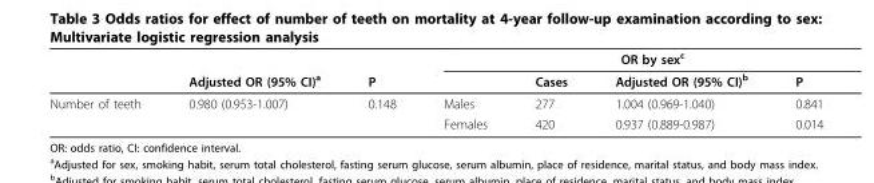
<table><thead><tr><td rowspan="2"></td><td rowspan="2">Adjusted OR (95% CI)<sup>a</sup></td><td rowspan="2">P</td><td colspan="4">OR by sex<sup>c</sup></td></tr><tr><td></td><td>Cases</td><td>Adjusted OR (95% CI)<sup>b</sup></td><td>P</td></tr></thead><tbody><tr><td rowspan="2">Number of teeth</td><td>0.980 (0.953-1.007)</td><td>0.148</td><td>Males</td><td>277</td><td>1.004 (0.969-1.040)</td><td>0.841</td></tr><tr><td></td><td></td><td>Females</td><td>420</td><td>0.937 (0.889-0.987)</td><td>0.014</td></tr></tbody></table>